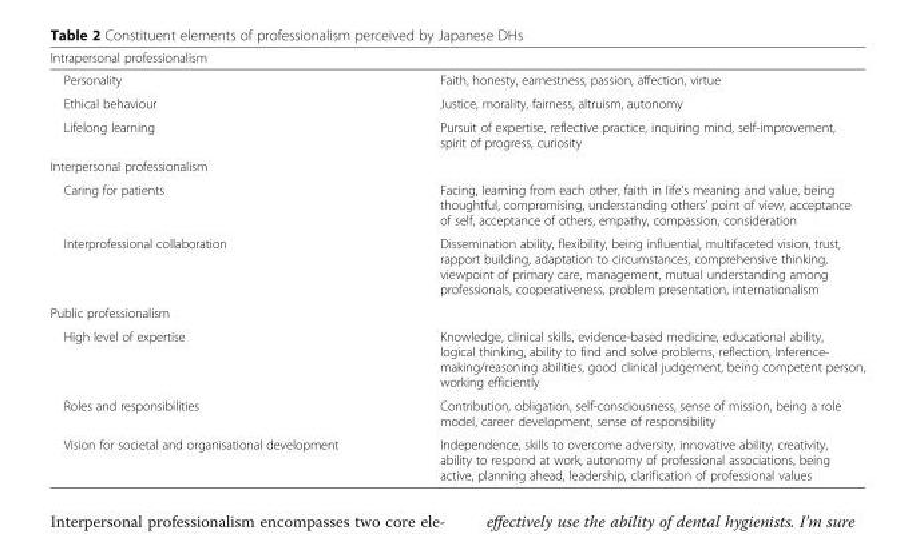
<table><thead><tr><td colspan="2">Intrapersonal professionalism</td></tr><tr><td>Personality</td><td>Faith, honesty, earnestness, passion, affection, virtue</td></tr></thead><tbody><tr><td>Ethical behaviour</td><td>Justice, morality, fairness, altruism, autonomy</td></tr><tr><td>Lifelong learning</td><td>Pursuit of expertise, reflective practice, inquiring mind, self-improvement, spirit of progress, curiosity</td></tr><tr><td colspan="2">Interpersonal professionalism</td></tr><tr><td>Caring for patients</td><td>Facing, learning from each other, faith in life’s meaning and value, being thoughtful, compromising, understanding others’ point of view, acceptance of self, acceptance of others, empathy, compassion, consideration</td></tr><tr><td>Interprofessional collaboration</td><td>Dissemination ability, flexibility, being influential, multifaceted vision, trust, rapport building, adaptation to circumstances, comprehensive thinking, viewpoint of primary care, management, mutual understanding among professionals, cooperativeness, problem presentation, internationalism</td></tr><tr><td colspan="2">Public professionalism</td></tr><tr><td>High level of expertise</td><td>Knowledge, clinical skills, evidence-based medicine, educational ability, logical thinking, ability to find and solve problems, reflection, Inference- making/reasoning abilities, good clinical judgement, being competent person, working efficiently</td></tr><tr><td>Roles and responsibilities</td><td>Contribution, obligation, self-consciousness, sense of mission, being a role model, career development, sense of responsibility</td></tr><tr><td>Vision for societal and organisational development</td><td>Independence, skills to overcome adversity, innovative ability, creativity, ability to respond at work, autonomy of professional associations, being active, planning ahead, leadership, clarification of professional values</td></tr></tbody></table>